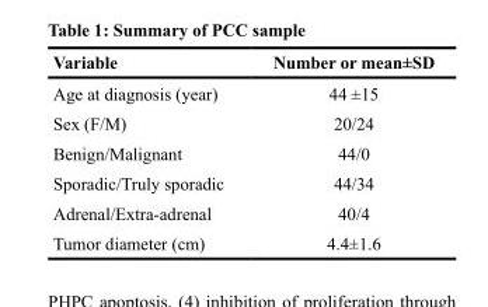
<table><thead><tr><td>Variable</td><td>Number or mean±SD</td></tr></thead><tbody><tr><td>Age at diagnosis (year)</td><td>44 ±15</td></tr><tr><td>Sex (F/M)</td><td>20/24</td></tr><tr><td>Benign/Malignant</td><td>44/0</td></tr><tr><td>Sporadic/Truly sporadic</td><td>44/34</td></tr><tr><td>Adrenal/Extra-adrenal</td><td>40/4</td></tr><tr><td>Tumor diameter (cm)</td><td>4.4±1.6</td></tr></tbody></table>